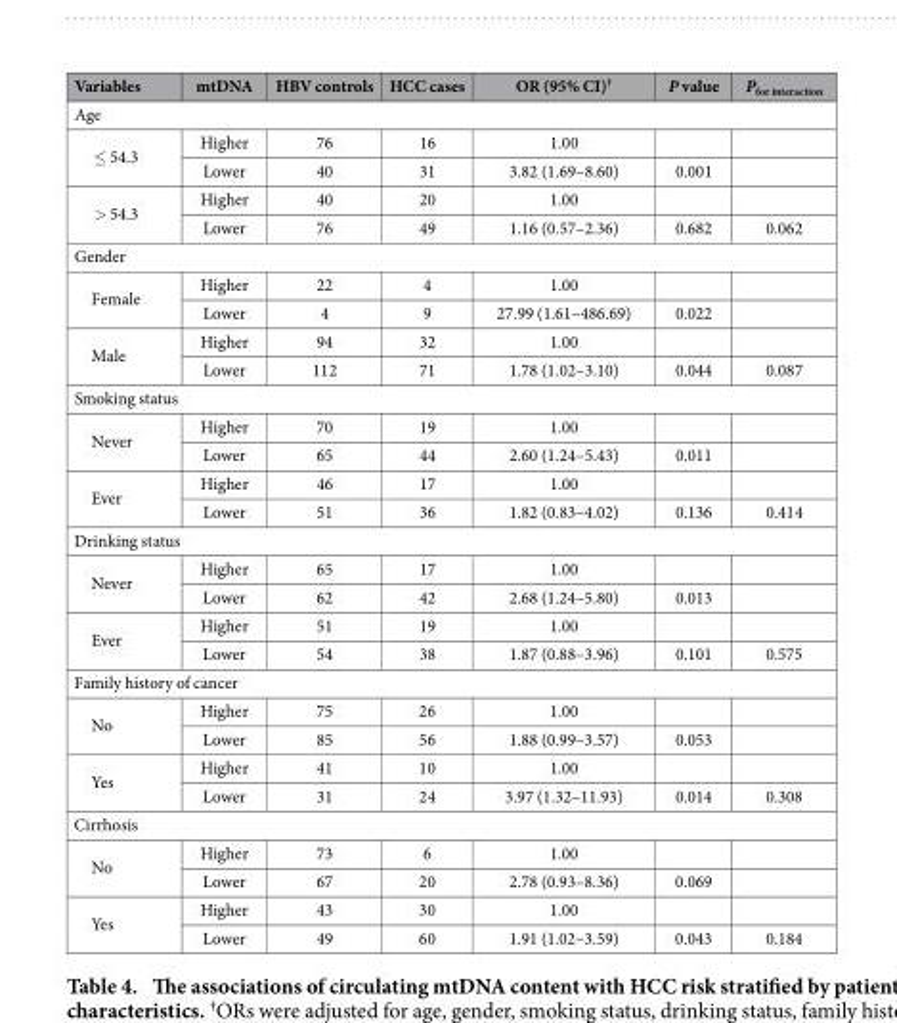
<table><thead><tr><td>Variables</td><td>mtDNA</td><td>HBV controls</td><td>HCC cases</td><td>OR (95% CI)†</td><td>P value</td><td>P<sub>for interaction</sub></td></tr></thead><tbody><tr><td colspan="7">Age</td></tr><tr><td rowspan="2">≤ 54.3</td><td>Higher</td><td>76</td><td>16</td><td>1.00</td><td></td><td></td></tr><tr><td>Lower</td><td>40</td><td>31</td><td>3.82 (1.69–8.60)</td><td>0.001</td><td></td></tr><tr><td rowspan="2">&gt; 54.3</td><td>Higher</td><td>40</td><td>20</td><td>1.00</td><td></td><td></td></tr><tr><td>Lower</td><td>76</td><td>49</td><td>1.16 (0.57–2.36)</td><td>0.682</td><td>0.062</td></tr><tr><td colspan="7">Gender</td></tr><tr><td rowspan="2">Female</td><td>Higher</td><td>22</td><td>4</td><td>1.00</td><td></td><td></td></tr><tr><td>Lower</td><td>4</td><td>9</td><td>27.99 (1.61–486.69)</td><td>0.022</td><td></td></tr><tr><td rowspan="2">Male</td><td>Higher</td><td>94</td><td>32</td><td>1.00</td><td></td><td></td></tr><tr><td>Lower</td><td>112</td><td>71</td><td>1.78 (1.02–3.10)</td><td>0.044</td><td>0.087</td></tr><tr><td colspan="7">Smoking status</td></tr><tr><td rowspan="2">Never</td><td>Higher</td><td>70</td><td>19</td><td>1.00</td><td></td><td></td></tr><tr><td>Lower</td><td>65</td><td>44</td><td>2.60 (1.24–5.43)</td><td>0.011</td><td></td></tr><tr><td rowspan="2">Ever</td><td>Higher</td><td>46</td><td>17</td><td>1.00</td><td></td><td></td></tr><tr><td>Lower</td><td>51</td><td>36</td><td>1.82 (0.83–4.02)</td><td>0.136</td><td>0.414</td></tr><tr><td colspan="7">Drinking status</td></tr><tr><td rowspan="2">Never</td><td>Higher</td><td>65</td><td>17</td><td>1.00</td><td></td><td></td></tr><tr><td>Lower</td><td>62</td><td>42</td><td>2.68 (1.24–5.80)</td><td>0.013</td><td></td></tr><tr><td rowspan="2">Ever</td><td>Higher</td><td>51</td><td>19</td><td>1.00</td><td></td><td></td></tr><tr><td>Lower</td><td>54</td><td>38</td><td>1.87 (0.88–3.96)</td><td>0.101</td><td>0.575</td></tr><tr><td colspan="7">Family history of cancer</td></tr><tr><td rowspan="2">No</td><td>Higher</td><td>75</td><td>26</td><td>1.00</td><td></td><td></td></tr><tr><td>Lower</td><td>85</td><td>56</td><td>1.88 (0.99–3.57)</td><td>0.053</td><td></td></tr><tr><td rowspan="2">Yes</td><td>Higher</td><td>41</td><td>10</td><td>1.00</td><td></td><td></td></tr><tr><td>Lower</td><td>31</td><td>24</td><td>3.97 (1.32–11.93)</td><td>0.014</td><td>0.308</td></tr><tr><td colspan="7">Cirrhosis</td></tr><tr><td rowspan="2">No</td><td>Higher</td><td>73</td><td>6</td><td>1.00</td><td></td><td></td></tr><tr><td>Lower</td><td>67</td><td>20</td><td>2.78 (0.93–8.36)</td><td>0.069</td><td></td></tr><tr><td rowspan="2">Yes</td><td>Higher</td><td>43</td><td>30</td><td>1.00</td><td></td><td></td></tr><tr><td>Lower</td><td>49</td><td>60</td><td>1.91 (1.02–3.59)</td><td>0.043</td><td>0.184</td></tr></tbody></table>